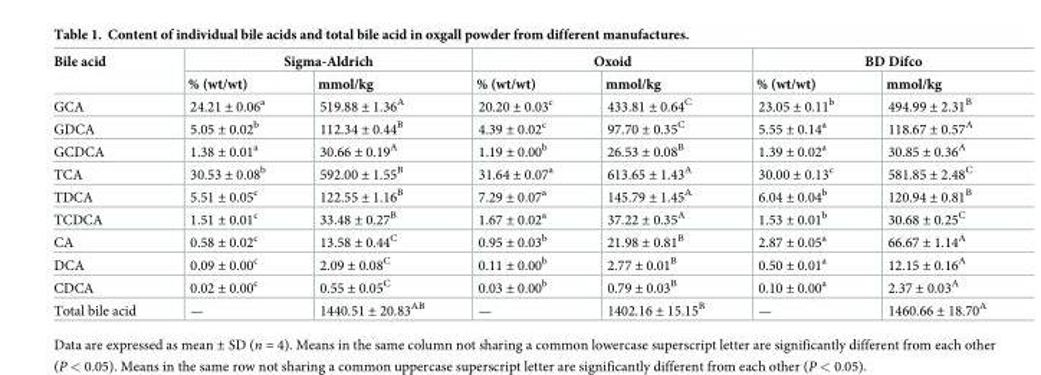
<table><thead><tr><td rowspan="2">Bile acid</td><td colspan="2">Sigma-Aldrich</td><td colspan="2">Oxoid</td><td colspan="2">BD Difco</td></tr><tr><td>% (wt/wt)</td><td>mmol/kg</td><td>% (wt/wt)</td><td>mmol/kg</td><td>% (wt/wt)</td><td>mmol/kg</td></tr></thead><tbody><tr><td>GCA</td><td>24.21 ± 0.06<sup>a</sup></td><td>519.88 ± 1.36<sup>A</sup></td><td>20.20 ± 0.03<sup>c</sup></td><td>433.81 ± 0.64<sup>C</sup></td><td>23.05 ± 0.11<sup>b</sup></td><td>494.99 ± 2.31<sup>B</sup></td></tr><tr><td>GDCA</td><td>5.05 ± 0.02<sup>b</sup></td><td>112.34 ± 0.44<sup>B</sup></td><td>4.39 ± 0.02<sup>c</sup></td><td>97.70 ± 0.35<sup>C</sup></td><td>5.55 ± 0.14<sup>a</sup></td><td>118.67 ± 0.57<sup>A</sup></td></tr><tr><td>GCDCA</td><td>1.38 ± 0.01<sup>a</sup></td><td>30.66 ± 0.19<sup>A</sup></td><td>1.19 ± 0.00<sup>b</sup></td><td>26.53 ± 0.08<sup>B</sup></td><td>1.39 ± 0.02<sup>a</sup></td><td>30.85 ± 0.36<sup>A</sup></td></tr><tr><td>TCA</td><td>30.53 ± 0.08<sup>b</sup></td><td>592.00 ± 1.55<sup>B</sup></td><td>31.64 ± 0.07<sup>a</sup></td><td>613.65 ± 1.43<sup>A</sup></td><td>30.00 ± 0.13<sup>c</sup></td><td>581.85 ± 2.48<sup>C</sup></td></tr><tr><td>TDCA</td><td>5.51 ± 0.05<sup>c</sup></td><td>122.55 ± 1.16<sup>B</sup></td><td>7.29 ± 0.07<sup>a</sup></td><td>145.79 ± 1.45<sup>A</sup></td><td>6.04 ± 0.04<sup>b</sup></td><td>120.94 ± 0.81<sup>B</sup></td></tr><tr><td>TCDCA</td><td>1.51 ± 0.01<sup>c</sup></td><td>33.48 ± 0.27<sup>B</sup></td><td>1.67 ± 0.02<sup>a</sup></td><td>37.22 ± 0.35<sup>A</sup></td><td>1.53 ± 0.01<sup>b</sup></td><td>30.68 ± 0.25<sup>C</sup></td></tr><tr><td>CA</td><td>0.58 ± 0.02<sup>c</sup></td><td>13.58 ± 0.44<sup>C</sup></td><td>0.95 ± 0.03<sup>b</sup></td><td>21.98 ± 0.81<sup>B</sup></td><td>2.87 ± 0.05<sup>a</sup></td><td>66.67 ± 1.14<sup>A</sup></td></tr><tr><td>DCA</td><td>0.09 ± 0.00<sup>c</sup></td><td>2.09 ± 0.08<sup>C</sup></td><td>0.11 ± 0.00<sup>b</sup></td><td>2.77 ± 0.01<sup>B</sup></td><td>0.50 ± 0.01<sup>a</sup></td><td>12.15 ± 0.16<sup>A</sup></td></tr><tr><td>CDCA</td><td>0.02 ± 0.00<sup>c</sup></td><td>0.55 ± 0.05<sup>C</sup></td><td>0.03 ± 0.00<sup>b</sup></td><td>0.79 ± 0.03<sup>B</sup></td><td>0.10 ± 0.00<sup>a</sup></td><td>2.37 ± 0.03<sup>A</sup></td></tr><tr><td>Total bile acid</td><td>—</td><td>1440.51 ± 20.83<sup>AB</sup></td><td>—</td><td>1402.16 ± 15.15<sup>B</sup></td><td>—</td><td>1460.66 ± 18.70<sup>A</sup></td></tr></tbody></table>